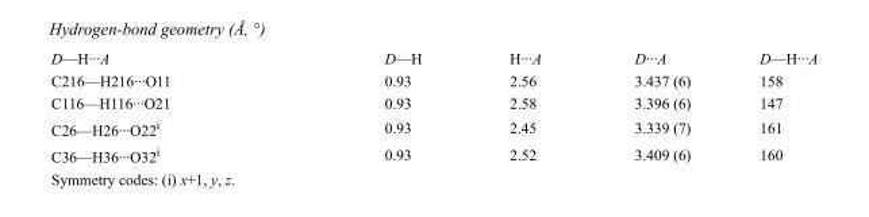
<table><tbody><tr><td>D—H···A</td><td>D—H</td><td>H···A</td><td>D···A</td><td>D—H···A</td></tr><tr><td>C216—H216···O11</td><td>0.93</td><td>2.56</td><td>3.437 (6)</td><td>158</td></tr><tr><td>C116—H116···O21</td><td>0.93</td><td>2.58</td><td>3.396 (6)</td><td>147</td></tr><tr><td>C26—H26···O22<sup>i</sup></td><td>0.93</td><td>2.45</td><td>3.339 (7)</td><td>161</td></tr><tr><td>C36—H36···O32<sup>i</sup></td><td>0.93</td><td>2.52</td><td>3.409 (6)</td><td>160</td></tr></tbody></table>